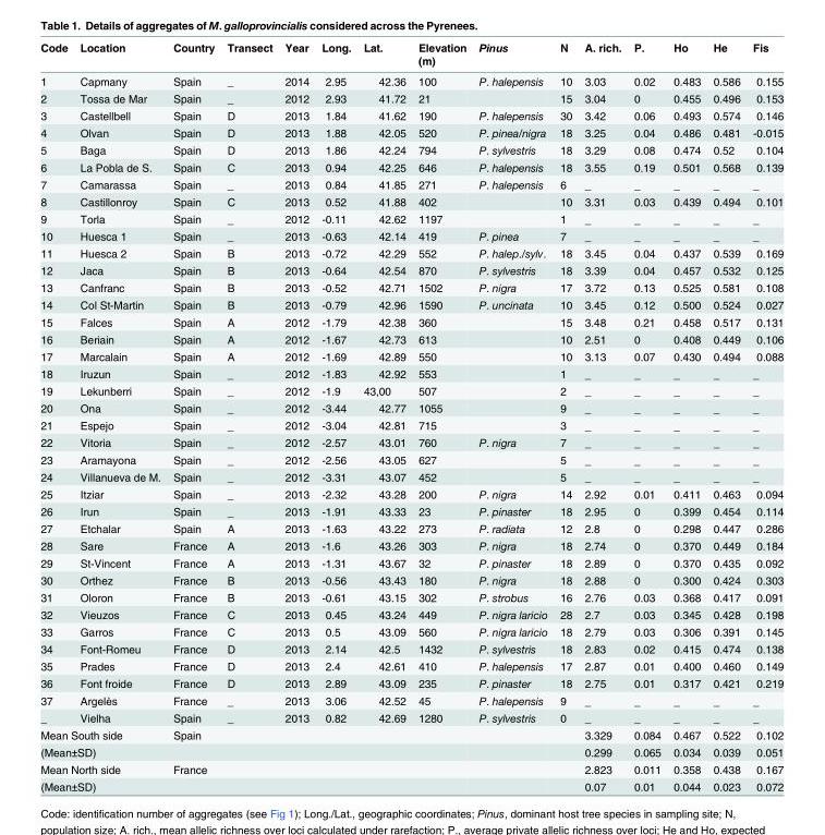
<table><thead><tr><td>Code</td><td>Location</td><td>Country</td><td>Transect</td><td>Year</td><td>Long.</td><td>Lat.</td><td>Elevation (m)</td><td>Pinus</td><td>N</td><td>A. rich.</td><td>P.</td><td>Ho</td><td>He</td><td>Fis</td></tr></thead><tbody><tr><td>1</td><td>Capmany</td><td>Spain</td><td>_</td><td>2014</td><td>2.95</td><td>42.36</td><td>100</td><td>P. halepensis</td><td>10</td><td>3.03</td><td>0.02</td><td>0.483</td><td>0.586</td><td>0.155</td></tr><tr><td>2</td><td>Tossa de Mar</td><td>Spain</td><td>_</td><td>2012</td><td>2.93</td><td>41.72</td><td>21</td><td></td><td>15</td><td>3.04</td><td>0</td><td>0.455</td><td>0.496</td><td>0.153</td></tr><tr><td>3</td><td>Castellbell</td><td>Spain</td><td>D</td><td>2013</td><td>1.84</td><td>41.62</td><td>190</td><td>P. halepensis</td><td>30</td><td>3.42</td><td>0.06</td><td>0.493</td><td>0.574</td><td>0.146</td></tr><tr><td>4</td><td>Olvan</td><td>Spain</td><td>D</td><td>2013</td><td>1.88</td><td>42.05</td><td>520</td><td>P. pinea/nigra</td><td>18</td><td>3.25</td><td>0.04</td><td>0.486</td><td>0.481</td><td>-0.015</td></tr><tr><td>5</td><td>Baga</td><td>Spain</td><td>D</td><td>2013</td><td>1.86</td><td>42.24</td><td>794</td><td>P. sylvestris</td><td>18</td><td>3.29</td><td>0.08</td><td>0.474</td><td>0.52</td><td>0.104</td></tr><tr><td>6</td><td>La Pobla de S.</td><td>Spain</td><td>C</td><td>2013</td><td>0.94</td><td>42.25</td><td>646</td><td>P. halepensis</td><td>18</td><td>3.55</td><td>0.19</td><td>0.501</td><td>0.568</td><td>0.139</td></tr><tr><td>7</td><td>Camarassa</td><td>Spain</td><td>_</td><td>2013</td><td>0.84</td><td>41.85</td><td>271</td><td>P. halepensis</td><td>6</td><td>_</td><td>_</td><td>_</td><td>_</td><td>_</td></tr><tr><td>8</td><td>Castillonroy</td><td>Spain</td><td>C</td><td>2013</td><td>0.52</td><td>41.88</td><td>402</td><td></td><td>10</td><td>3.31</td><td>0.03</td><td>0.439</td><td>0.494</td><td>0.101</td></tr><tr><td>9</td><td>Torla</td><td>Spain</td><td>_</td><td>2012</td><td>-0.11</td><td>42.62</td><td>1197</td><td></td><td>1</td><td>_</td><td>_</td><td>_</td><td>_</td><td>_</td></tr><tr><td>10</td><td>Huesca 1</td><td>Spain</td><td>_</td><td>2013</td><td>-0.63</td><td>42.14</td><td>419</td><td>P. pinea</td><td>7</td><td>_</td><td>_</td><td>_</td><td>_</td><td>_</td></tr><tr><td>11</td><td>Huesca 2</td><td>Spain</td><td>B</td><td>2013</td><td>-0.72</td><td>42.29</td><td>552</td><td>P. halep./sylv.</td><td>18</td><td>3.45</td><td>0.04</td><td>0.437</td><td>0.539</td><td>0.169</td></tr><tr><td>12</td><td>Jaca</td><td>Spain</td><td>B</td><td>2013</td><td>-0.64</td><td>42.54</td><td>870</td><td>P. sylvestris</td><td>18</td><td>3.39</td><td>0.04</td><td>0.457</td><td>0.532</td><td>0.125</td></tr><tr><td>13</td><td>Canfranc</td><td>Spain</td><td>B</td><td>2013</td><td>-0.52</td><td>42.71</td><td>1502</td><td>P. nigra</td><td>17</td><td>3.72</td><td>0.13</td><td>0.525</td><td>0.581</td><td>0.108</td></tr><tr><td>14</td><td>Col St-Martin</td><td>Spain</td><td>B</td><td>2013</td><td>-0.79</td><td>42.96</td><td>1590</td><td>P. uncinata</td><td>10</td><td>3.45</td><td>0.12</td><td>0.500</td><td>0.524</td><td>0.027</td></tr><tr><td>15</td><td>Falces</td><td>Spain</td><td>A</td><td>2012</td><td>-1.79</td><td>42.38</td><td>360</td><td></td><td>15</td><td>3.48</td><td>0.21</td><td>0.458</td><td>0.517</td><td>0.131</td></tr><tr><td>16</td><td>Beriain</td><td>Spain</td><td>A</td><td>2012</td><td>-1.67</td><td>42.73</td><td>613</td><td></td><td>10</td><td>2.51</td><td>0</td><td>0.408</td><td>0.449</td><td>0.106</td></tr><tr><td>17</td><td>Marcalain</td><td>Spain</td><td>A</td><td>2012</td><td>-1.69</td><td>42.89</td><td>550</td><td></td><td>10</td><td>3.13</td><td>0.07</td><td>0.430</td><td>0.494</td><td>0.088</td></tr><tr><td>18</td><td>Iruzun</td><td>Spain</td><td>_</td><td>2012</td><td>-1.83</td><td>42.92</td><td>553</td><td></td><td>1</td><td>_</td><td>_</td><td>_</td><td>_</td><td>_</td></tr><tr><td>19</td><td>Lekunberri</td><td>Spain</td><td>_</td><td>2012</td><td>-1.9</td><td>43,00</td><td>507</td><td></td><td>2</td><td>_</td><td>_</td><td>_</td><td>_</td><td>_</td></tr><tr><td>20</td><td>Ona</td><td>Spain</td><td>_</td><td>2012</td><td>-3.44</td><td>42.77</td><td>1055</td><td></td><td>9</td><td>_</td><td>_</td><td>_</td><td>_</td><td>_</td></tr><tr><td>21</td><td>Espejo</td><td>Spain</td><td>_</td><td>2012</td><td>-3.04</td><td>42.81</td><td>715</td><td></td><td>3</td><td>_</td><td>_</td><td>_</td><td>_</td><td>_</td></tr><tr><td>22</td><td>Vitoria</td><td>Spain</td><td>_</td><td>2012</td><td>-2.57</td><td>43.01</td><td>760</td><td>P. nigra</td><td>7</td><td>_</td><td>_</td><td>_</td><td>_</td><td>_</td></tr><tr><td>23</td><td>Aramayona</td><td>Spain</td><td>_</td><td>2012</td><td>-2.56</td><td>43.05</td><td>627</td><td></td><td>5</td><td>_</td><td>_</td><td>_</td><td>_</td><td>_</td></tr><tr><td>24</td><td>Villanueva de M.</td><td>Spain</td><td>_</td><td>2012</td><td>-3.31</td><td>43.07</td><td>452</td><td></td><td>5</td><td>_</td><td>_</td><td>_</td><td>_</td><td>_</td></tr><tr><td>25</td><td>Itziar</td><td>Spain</td><td>_</td><td>2013</td><td>-2.32</td><td>43.28</td><td>200</td><td>P. nigra</td><td>14</td><td>2.92</td><td>0.01</td><td>0.411</td><td>0.463</td><td>0.094</td></tr><tr><td>26</td><td>Irun</td><td>Spain</td><td>_</td><td>2013</td><td>-1.91</td><td>43.33</td><td>23</td><td>P. pinaster</td><td>18</td><td>2.95</td><td>0</td><td>0.399</td><td>0.454</td><td>0.114</td></tr><tr><td>27</td><td>Etchalar</td><td>Spain</td><td>A</td><td>2013</td><td>-1.63</td><td>43.22</td><td>273</td><td>P. radiata</td><td>12</td><td>2.8</td><td>0</td><td>0.298</td><td>0.447</td><td>0.286</td></tr><tr><td>28</td><td>Sare</td><td>France</td><td>A</td><td>2013</td><td>-1.6</td><td>43.26</td><td>303</td><td>P. nigra</td><td>18</td><td>2.74</td><td>0</td><td>0.370</td><td>0.449</td><td>0.184</td></tr><tr><td>29</td><td>St-Vincent</td><td>France</td><td>A</td><td>2013</td><td>-1.31</td><td>43.67</td><td>32</td><td>P. pinaster</td><td>18</td><td>2.89</td><td>0</td><td>0.370</td><td>0.435</td><td>0.092</td></tr><tr><td>30</td><td>Orthez</td><td>France</td><td>B</td><td>2013</td><td>-0.56</td><td>43.43</td><td>180</td><td>P. nigra</td><td>18</td><td>2.88</td><td>0</td><td>0.300</td><td>0.424</td><td>0.303</td></tr><tr><td>31</td><td>Oloron</td><td>France</td><td>B</td><td>2013</td><td>-0.61</td><td>43.15</td><td>302</td><td>P. strobus</td><td>16</td><td>2.76</td><td>0.03</td><td>0.368</td><td>0.417</td><td>0.091</td></tr><tr><td>32</td><td>Vieuzos</td><td>France</td><td>C</td><td>2013</td><td>0.45</td><td>43.24</td><td>449</td><td>P. nigra laricio</td><td>28</td><td>2.7</td><td>0.03</td><td>0.345</td><td>0.428</td><td>0.198</td></tr><tr><td>33</td><td>Garros</td><td>France</td><td>C</td><td>2013</td><td>0.5</td><td>43.09</td><td>560</td><td>P. nigra laricio</td><td>18</td><td>2.79</td><td>0.03</td><td>0.306</td><td>0.391</td><td>0.145</td></tr><tr><td>34</td><td>Font-Romeu</td><td>France</td><td>D</td><td>2013</td><td>2.14</td><td>42.5</td><td>1432</td><td>P. sylvestris</td><td>18</td><td>2.83</td><td>0.02</td><td>0.415</td><td>0.474</td><td>0.138</td></tr><tr><td>35</td><td>Prades</td><td>France</td><td>D</td><td>2013</td><td>2.4</td><td>42.61</td><td>410</td><td>P. halepensis</td><td>17</td><td>2.87</td><td>0.01</td><td>0.400</td><td>0.460</td><td>0.149</td></tr><tr><td>36</td><td>Font froide</td><td>France</td><td>D</td><td>2013</td><td>2.89</td><td>43.09</td><td>235</td><td>P. pinaster</td><td>18</td><td>2.75</td><td>0.01</td><td>0.317</td><td>0.421</td><td>0.219</td></tr><tr><td>37</td><td>Argelès</td><td>France</td><td>_</td><td>2013</td><td>3.06</td><td>42.52</td><td>45</td><td>P. halepensis</td><td>9</td><td>_</td><td>_</td><td>_</td><td>_</td><td>_</td></tr><tr><td>_</td><td>Vielha</td><td>Spain</td><td>_</td><td>2013</td><td>0.82</td><td>42.69</td><td>1280</td><td>P. sylvestris</td><td>0</td><td>_</td><td>_</td><td>_</td><td>_</td><td>_</td></tr><tr><td colspan="2">Mean South side</td><td>Spain</td><td></td><td></td><td></td><td></td><td></td><td></td><td></td><td>3.329</td><td>0.084</td><td>0.467</td><td>0.522</td><td>0.102</td></tr><tr><td colspan="2">(Mean±SD)</td><td></td><td></td><td></td><td></td><td></td><td></td><td></td><td></td><td>0.299</td><td>0.065</td><td>0.034</td><td>0.039</td><td>0.051</td></tr><tr><td colspan="2">Mean North side</td><td>France</td><td></td><td></td><td></td><td></td><td></td><td></td><td></td><td>2.823</td><td>0.011</td><td>0.358</td><td>0.438</td><td>0.167</td></tr><tr><td colspan="2">(Mean±SD)</td><td></td><td></td><td></td><td></td><td></td><td></td><td></td><td></td><td>0.07</td><td>0.01</td><td>0.044</td><td>0.023</td><td>0.072</td></tr></tbody></table>